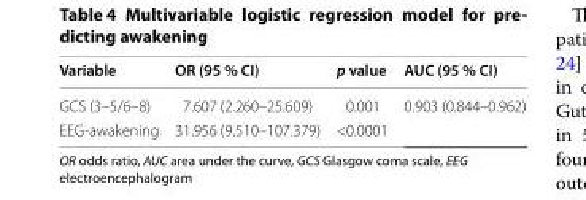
<table><thead><tr><td>Variable</td><td>OR (95 % CI)</td><td>p value</td><td>AUC (95 % CI)</td></tr></thead><tbody><tr><td>GCS (3–5/6–8)</td><td>7.607 (2.260–25.609)</td><td>0.001</td><td rowspan="2">0.903 (0.844–0.962)</td></tr><tr><td>EEG‑awakening</td><td>31.956 (9.510–107.379)</td><td>&lt;0.0001</td></tr></tbody></table>